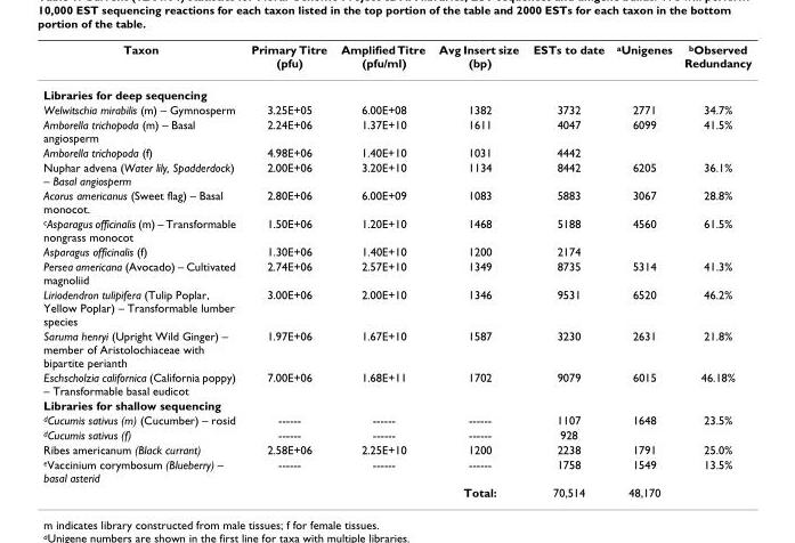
<table><thead><tr><td>Taxon</td><td>Primary Titre (pfu)</td><td>Amplified Titre (pfu/ml)</td><td>Avg Insert size (bp)</td><td>ESTs to date</td><td>aUnigenes</td><td>bObserved Redundancy</td></tr></thead><tbody><tr><td colspan="7">Libraries for deep sequencing</td></tr><tr><td>Welwitschia mirabilis (m) – Gymnosperm</td><td>3.25E+05</td><td>6.00E+08</td><td>1382</td><td>3732</td><td>2771</td><td>34.7%</td></tr><tr><td>Amborella trichopoda (m) – Basal angiosperm</td><td>2.24E+06</td><td>1.37E+10</td><td>1611</td><td>4047</td><td>6099</td><td>41.5%</td></tr><tr><td>Amborella trichopoda (f)</td><td>4.98E+06</td><td>1.40E+10</td><td>1031</td><td>4442</td><td></td><td></td></tr><tr><td>Nuphar advena (Water lily, Spadderdock) – Basal angiosperm</td><td>2.00E+06</td><td>3.20E+10</td><td>1134</td><td>8442</td><td>6205</td><td>36.1%</td></tr><tr><td>Acorus americanus (Sweet flag) – Basal monocot.</td><td>2.80E+06</td><td>6.00E+09</td><td>1083</td><td>5883</td><td>3067</td><td>28.8%</td></tr><tr><td>cAsparagus officinalis (m) – Transformable nongrass monocot</td><td>1.50E+06</td><td>1.20E+10</td><td>1468</td><td>5188</td><td>4560</td><td>61.5%</td></tr><tr><td>Asparagus officinalis (f)</td><td>1.30E+06</td><td>1.40E+10</td><td>1200</td><td>2174</td><td></td><td></td></tr><tr><td>Persea americana (Avocado) – Cultivated magnoliid</td><td>2.74E+06</td><td>2.57E+10</td><td>1349</td><td>8735</td><td>5314</td><td>41.3%</td></tr><tr><td>Liriodendron tulipifera (Tulip Poplar, Yellow Poplar) – Transformable lumber species</td><td>3.00E+06</td><td>2.00E+10</td><td>1346</td><td>9531</td><td>6520</td><td>46.2%</td></tr><tr><td>Saruma henryi (Upright Wild Ginger) – member of Aristolochiaceae with bipartite perianth</td><td>1.97E+06</td><td>1.67E+10</td><td>1587</td><td>3230</td><td>2631</td><td>21.8%</td></tr><tr><td>Eschscholzia californica (California poppy) – Transformable basal eudicot</td><td>7.00E+06</td><td>1.68E+11</td><td>1702</td><td>9079</td><td>6015</td><td>46.18%</td></tr><tr><td colspan="7">Libraries for shallow sequencing</td></tr><tr><td>dCucumis sativus (m) (Cucumber) – rosid</td><td>------</td><td>------</td><td>------</td><td>1107</td><td>1648</td><td>23.5%</td></tr><tr><td>dCucumis sativus (f)</td><td>------</td><td>------</td><td>------</td><td>928</td><td></td><td></td></tr><tr><td>Ribes americanum (Black currant)</td><td>2.58E+06</td><td>2.25E+10</td><td>1200</td><td>2238</td><td>1791</td><td>25.0%</td></tr><tr><td rowspan="2">eVaccinium corymbosum (Blueberry) – basal asterid</td><td>------</td><td>------</td><td>------</td><td>1758</td><td>1549</td><td>13.5%</td></tr><tr><td></td><td></td><td>Total:</td><td>70,514</td><td>48,170</td><td></td></tr></tbody></table>